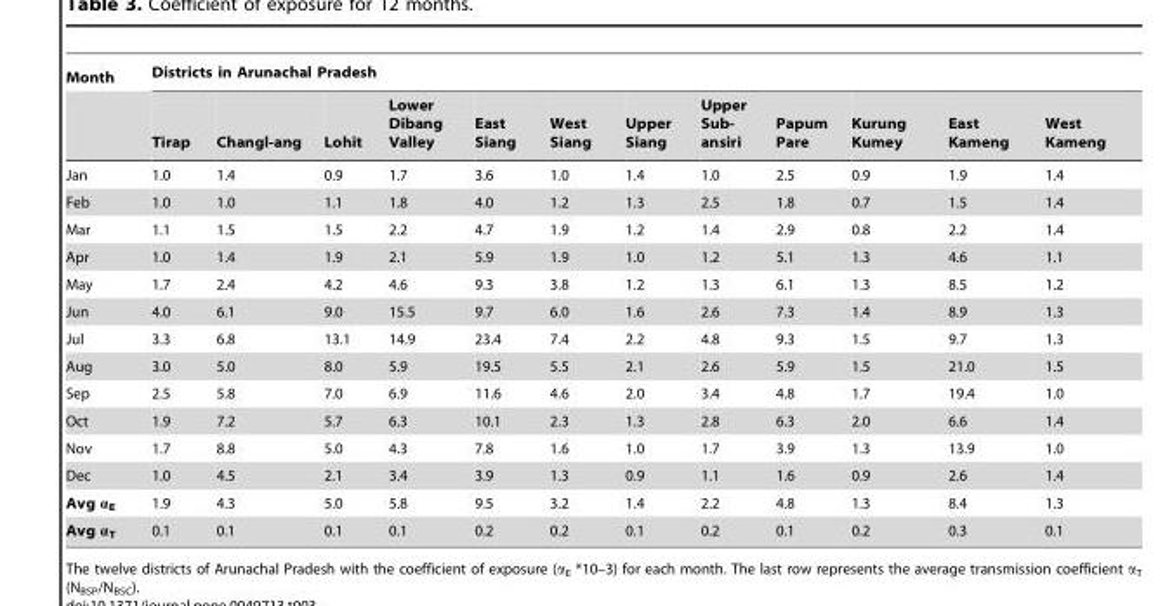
<table><thead><tr><td rowspan="2">Month</td><td colspan="12">Districts in Arunachal Pradesh</td></tr><tr><td>Tirap</td><td>Changl-ang</td><td>Lohit</td><td>Lower Dibang Valley</td><td>East Siang</td><td>West Siang</td><td>Upper Siang</td><td>Upper Sub- ansiri</td><td>Papum Pare</td><td>Kurung Kumey</td><td>East Kameng</td><td>West Kameng</td></tr></thead><tbody><tr><td>Jan</td><td>1.0</td><td>1.4</td><td>0.9</td><td>1.7</td><td>3.6</td><td>1.0</td><td>1.4</td><td>1.0</td><td>2.5</td><td>0.9</td><td>1.9</td><td>1.4</td></tr><tr><td>Feb</td><td>1.0</td><td>1.0</td><td>1.1</td><td>1.8</td><td>4.0</td><td>1.2</td><td>1.3</td><td>2.5</td><td>1.8</td><td>0.7</td><td>1.5</td><td>1.4</td></tr><tr><td>Mar</td><td>1.1</td><td>1.5</td><td>1.5</td><td>2.2</td><td>4.7</td><td>1.9</td><td>1.2</td><td>1.4</td><td>2.9</td><td>0.8</td><td>2.2</td><td>1.4</td></tr><tr><td>Apr</td><td>1.0</td><td>1.4</td><td>1.9</td><td>2.1</td><td>5.9</td><td>1.9</td><td>1.0</td><td>1.2</td><td>5.1</td><td>1.3</td><td>4.6</td><td>1.1</td></tr><tr><td>May</td><td>1.7</td><td>2.4</td><td>4.2</td><td>4.6</td><td>9.3</td><td>3.8</td><td>1.2</td><td>1.3</td><td>6.1</td><td>1.3</td><td>8.5</td><td>1.2</td></tr><tr><td>Jun</td><td>4.0</td><td>6.1</td><td>9.0</td><td>15.5</td><td>9.7</td><td>6.0</td><td>1.6</td><td>2.6</td><td>7.3</td><td>1.4</td><td>8.9</td><td>1.3</td></tr><tr><td>Jul</td><td>3.3</td><td>6.8</td><td>13.1</td><td>14.9</td><td>23.4</td><td>7.4</td><td>2.2</td><td>4.8</td><td>9.3</td><td>1.5</td><td>9.7</td><td>1.3</td></tr><tr><td>Aug</td><td>3.0</td><td>5.0</td><td>8.0</td><td>5.9</td><td>19.5</td><td>5.5</td><td>2.1</td><td>2.6</td><td>5.9</td><td>1.5</td><td>21.0</td><td>1.5</td></tr><tr><td>Sep</td><td>2.5</td><td>5.8</td><td>7.0</td><td>6.9</td><td>11.6</td><td>4.6</td><td>2.0</td><td>3.4</td><td>4.8</td><td>1.7</td><td>19.4</td><td>1.0</td></tr><tr><td>Oct</td><td>1.9</td><td>7.2</td><td>5.7</td><td>6.3</td><td>10.1</td><td>2.3</td><td>1.3</td><td>2.8</td><td>6.3</td><td>2.0</td><td>6.6</td><td>1.4</td></tr><tr><td>Nov</td><td>1.7</td><td>8.8</td><td>5.0</td><td>4.3</td><td>7.8</td><td>1.6</td><td>1.0</td><td>1.7</td><td>3.9</td><td>1.3</td><td>13.9</td><td>1.0</td></tr><tr><td>Dec</td><td>1.0</td><td>4.5</td><td>2.1</td><td>3.4</td><td>3.9</td><td>1.3</td><td>0.9</td><td>1.1</td><td>1.6</td><td>0.9</td><td>2.6</td><td>1.4</td></tr><tr><td>Avg α<sub>E</sub></td><td>1.9</td><td>4.3</td><td>5.0</td><td>5.8</td><td>9.5</td><td>3.2</td><td>1.4</td><td>2.2</td><td>4.8</td><td>1.3</td><td>8.4</td><td>1.3</td></tr><tr><td>Avg α<sub>T</sub></td><td>0.1</td><td>0.1</td><td>0.1</td><td>0.1</td><td>0.2</td><td>0.2</td><td>0.1</td><td>0.2</td><td>0.1</td><td>0.2</td><td>0.3</td><td>0.1</td></tr></tbody></table>